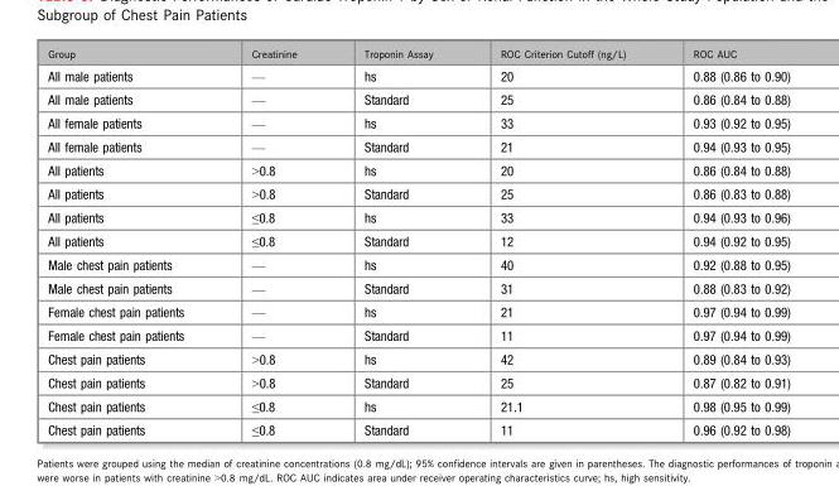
<table><thead><tr><td>Group</td><td>Creatinine</td><td>Troponin Assay</td><td>ROC Criterion Cutoff (ng/L)</td><td>ROC AUC</td></tr></thead><tbody><tr><td>All male patients</td><td>—</td><td>hs</td><td>20</td><td>0.88 (0.86 to 0.90)</td></tr><tr><td>All male patients</td><td>—</td><td>Standard</td><td>25</td><td>0.86 (0.84 to 0.88)</td></tr><tr><td>All female patients</td><td>—</td><td>hs</td><td>33</td><td>0.93 (0.92 to 0.95)</td></tr><tr><td>All female patients</td><td>—</td><td>Standard</td><td>21</td><td>0.94 (0.93 to 0.95)</td></tr><tr><td>All patients</td><td>&gt;0.8</td><td>hs</td><td>20</td><td>0.86 (0.84 to 0.88)</td></tr><tr><td>All patients</td><td>&gt;0.8</td><td>Standard</td><td>25</td><td>0.86 (0.83 to 0.88)</td></tr><tr><td>All patients</td><td>≤0.8</td><td>hs</td><td>33</td><td>0.94 (0.93 to 0.96)</td></tr><tr><td>All patients</td><td>≤0.8</td><td>Standard</td><td>12</td><td>0.94 (0.92 to 0.95)</td></tr><tr><td>Male chest pain patients</td><td>—</td><td>hs</td><td>40</td><td>0.92 (0.88 to 0.95)</td></tr><tr><td>Male chest pain patients</td><td>—</td><td>Standard</td><td>31</td><td>0.88 (0.83 to 0.92)</td></tr><tr><td>Female chest pain patients</td><td>—</td><td>hs</td><td>21</td><td>0.97 (0.94 to 0.99)</td></tr><tr><td>Female chest pain patients</td><td>—</td><td>Standard</td><td>11</td><td>0.97 (0.94 to 0.99)</td></tr><tr><td>Chest pain patients</td><td>&gt;0.8</td><td>hs</td><td>42</td><td>0.89 (0.84 to 0.93)</td></tr><tr><td>Chest pain patients</td><td>&gt;0.8</td><td>Standard</td><td>25</td><td>0.87 (0.82 to 0.91)</td></tr><tr><td>Chest pain patients</td><td>≤0.8</td><td>hs</td><td>21.1</td><td>0.98 (0.95 to 0.99)</td></tr><tr><td>Chest pain patients</td><td>≤0.8</td><td>Standard</td><td>11</td><td>0.96 (0.92 to 0.98)</td></tr></tbody></table>